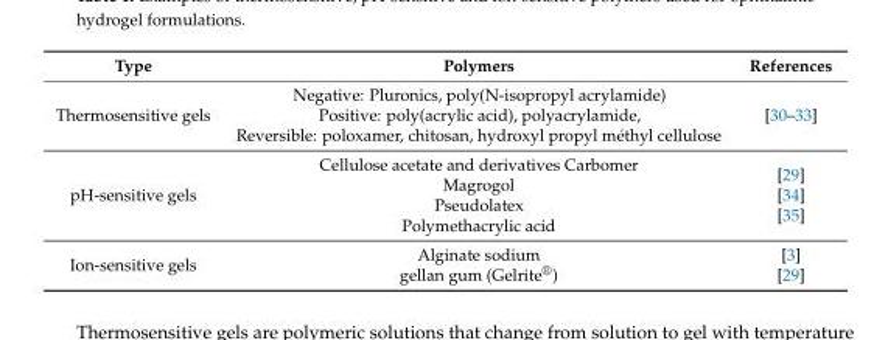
<table><thead><tr><td>Type</td><td>Polymers</td><td>References</td></tr></thead><tbody><tr><td>Thermosensitive gels</td><td>Negative: Pluronics, poly(N-isopropyl acrylamide) Positive: poly(acrylic acid), polyacrylamide, Reversible: poloxamer, chitosan, hydroxyl propyl méthyl cellulose</td><td>[30–33]</td></tr><tr><td>pH-sensitive gels</td><td>Cellulose acetate and derivatives Carbomer Magrogol Pseudolatex Polymethacrylic acid</td><td>[29] [34] [35]</td></tr><tr><td>Ion-sensitive gels</td><td>Alginate sodium gellan gum (Gelrite<sup>®</sup>)</td><td>[3] [29]</td></tr></tbody></table>